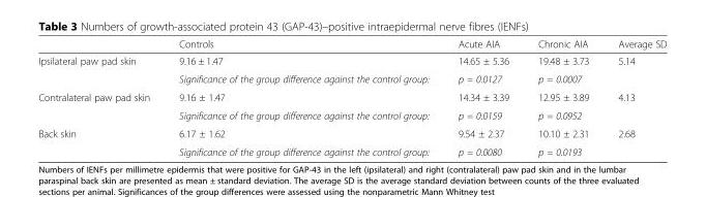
<table><thead><tr><td></td><td>Controls</td><td>Acute AIA</td><td>Chronic AIA</td><td>Average SD</td></tr></thead><tbody><tr><td rowspan="2">Ipsilateral paw pad skin</td><td>9.16 ± 1.47</td><td>14.65 ± 5.36</td><td>19.48 ± 3.73</td><td>5.14</td></tr><tr><td>Significance of the group difference against the control group:</td><td>p = 0.0127</td><td>p = 0.0007</td><td></td></tr><tr><td rowspan="2">Contralateral paw pad skin</td><td>9.16 ± 1.47</td><td>14.34 ± 3.39</td><td>12.95 ± 3.89</td><td>4.13</td></tr><tr><td>Significance of the group difference against the control group:</td><td>p = 0.0159</td><td>p = 0.0952</td><td></td></tr><tr><td rowspan="2">Back skin</td><td>6.17 ± 1.62</td><td>9.54 ± 2.37</td><td>10.10 ± 2.31</td><td>2.68</td></tr><tr><td>Significance of the group difference against the control group:</td><td>p = 0.0080</td><td>p = 0.0193</td><td></td></tr></tbody></table>